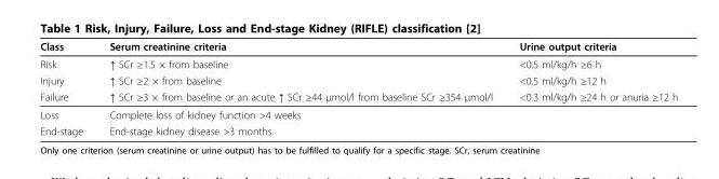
<table><thead><tr><td>Class</td><td>Serum creatinine criteria</td><td>Urine output criteria</td></tr></thead><tbody><tr><td>Risk</td><td>↑ SCr ≥1.5 × from baseline</td><td>&lt;0.5 ml/kg/h ≥6 h</td></tr><tr><td>Injury</td><td>↑ SCr ≥2 × from baseline</td><td>&lt;0.5 ml/kg/h ≥12 h</td></tr><tr><td>Failure</td><td>↑ SCr ≥3 × from baseline or an acute ↑ SCr ≥44 μmol/l from baseline SCr ≥354 μmol/l</td><td>&lt;0.3 ml/kg/h ≥24 h or anuria ≥12 h</td></tr><tr><td>Loss</td><td colspan="2">Complete loss of kidney function &gt;4 weeks</td></tr><tr><td>End-stage</td><td colspan="2">End-stage kidney disease &gt;3 months</td></tr></tbody></table>